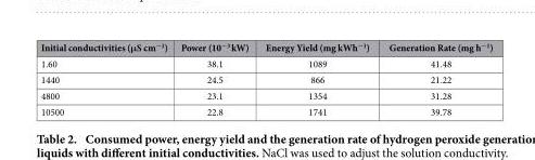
<table><thead><tr><td>Initial conductivities (μS cm<sup>−1</sup>)</td><td>Power (10<sup>−3</sup> kW)</td><td>Energy Yield (mg kWh<sup>−1</sup>)</td><td>Generation Rate (mg h<sup>−1</sup>)</td></tr></thead><tbody><tr><td>1.60</td><td>38.1</td><td>1089</td><td>41.48</td></tr><tr><td>1440</td><td>24.5</td><td>866</td><td>21.22</td></tr><tr><td>4800</td><td>23.1</td><td>1354</td><td>31.28</td></tr><tr><td>10500</td><td>22.8</td><td>1741</td><td>39.78</td></tr></tbody></table>